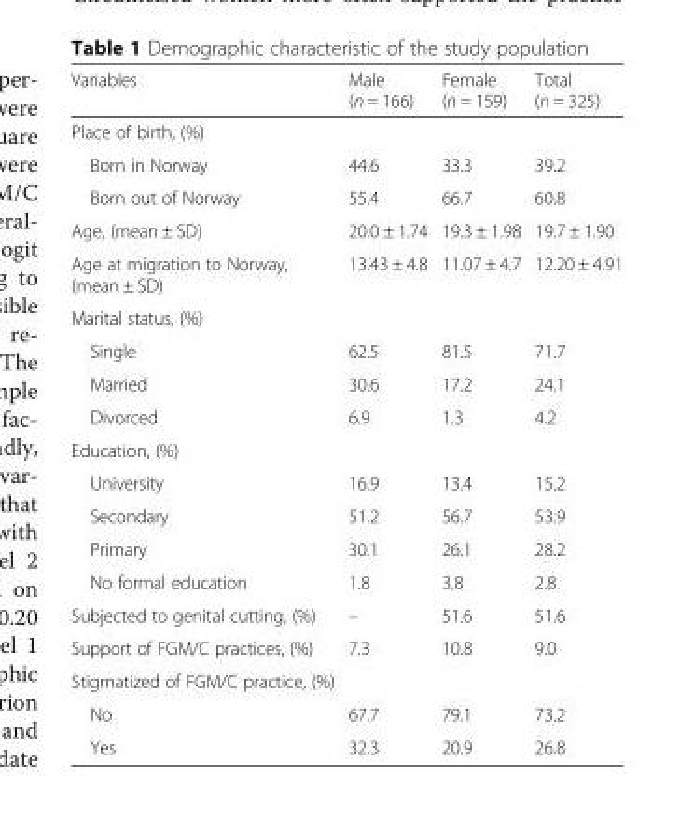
<table><thead><tr><td>Variables</td><td>Male (n = 166)</td><td>Female (n = 159)</td><td>Total (n = 325)</td></tr></thead><tbody><tr><td colspan="4">Place of birth, (%)</td></tr><tr><td>Born in Norway</td><td>44.6</td><td>33.3</td><td>39.2</td></tr><tr><td>Born out of Norway</td><td>55.4</td><td>66.7</td><td>60.8</td></tr><tr><td>Age, (mean ± SD)</td><td>20.0 ± 1.74</td><td>19.3 ± 1.98</td><td>19.7 ± 1.90</td></tr><tr><td>Age at migration to Norway, (mean ± SD)</td><td>13.43 ± 4.8</td><td>11.07 ± 4.7</td><td>12.20 ± 4.91</td></tr><tr><td colspan="4">Marital status, (%)</td></tr><tr><td>Single</td><td>62.5</td><td>81.5</td><td>71.7</td></tr><tr><td>Married</td><td>30.6</td><td>17.2</td><td>24.1</td></tr><tr><td>Divorced</td><td>6.9</td><td>1.3</td><td>4.2</td></tr><tr><td colspan="4">Education, (%)</td></tr><tr><td>University</td><td>16.9</td><td>13.4</td><td>15.2</td></tr><tr><td>Secondary</td><td>51.2</td><td>56.7</td><td>53.9</td></tr><tr><td>Primary</td><td>30.1</td><td>26.1</td><td>28.2</td></tr><tr><td>No formal education</td><td>1.8</td><td>3.8</td><td>2.8</td></tr><tr><td>Subjected to genital cutting, (%)</td><td>–</td><td>51.6</td><td>51.6</td></tr><tr><td>Support of FGM/C practices, (%)</td><td>7.3</td><td>10.8</td><td>9.0</td></tr><tr><td colspan="4">Stigmatized of FGM/C practice, (%)</td></tr><tr><td>No</td><td>67.7</td><td>79.1</td><td>73.2</td></tr><tr><td>Yes</td><td>32.3</td><td>20.9</td><td>26.8</td></tr></tbody></table>